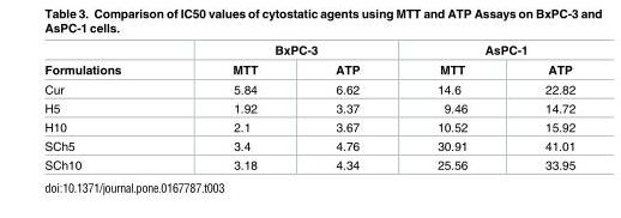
<table><thead><tr><td rowspan="2">Formulations</td><td colspan="2">BxPC-3</td><td colspan="2">AsPC-1</td></tr><tr><td>MTT</td><td>ATP</td><td>MTT</td><td>ATP</td></tr></thead><tbody><tr><td>Cur</td><td>5.84</td><td>6.62</td><td>14.6</td><td>22.82</td></tr><tr><td>H5</td><td>1.92</td><td>3.37</td><td>9.46</td><td>14.72</td></tr><tr><td>H10</td><td>2.1</td><td>3.67</td><td>10.52</td><td>15.92</td></tr><tr><td>SCh5</td><td>3.4</td><td>4.76</td><td>30.91</td><td>41.01</td></tr><tr><td>SCh10</td><td>3.18</td><td>4.34</td><td>25.56</td><td>33.95</td></tr></tbody></table>